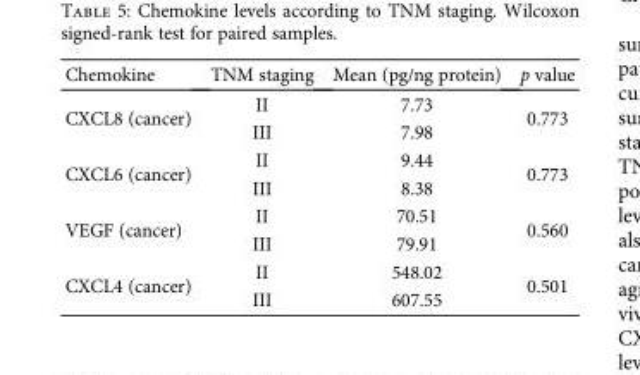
<table><thead><tr><td>Chemokine</td><td>TNM staging</td><td>Mean (pg/ng protein)</td><td>p value</td></tr></thead><tbody><tr><td rowspan="2">CXCL8 (cancer)</td><td>II</td><td>7.73</td><td rowspan="2">0.773</td></tr><tr><td>III</td><td>7.98</td></tr><tr><td rowspan="2">CXCL6 (cancer)</td><td>II</td><td>9.44</td><td rowspan="2">0.773</td></tr><tr><td>III</td><td>8.38</td></tr><tr><td rowspan="2">VEGF (cancer)</td><td>II</td><td>70.51</td><td rowspan="2">0.560</td></tr><tr><td>III</td><td>79.91</td></tr><tr><td rowspan="2">CXCL4 (cancer)</td><td>II</td><td>548.02</td><td rowspan="2">0.501</td></tr><tr><td>III</td><td>607.55</td></tr></tbody></table>